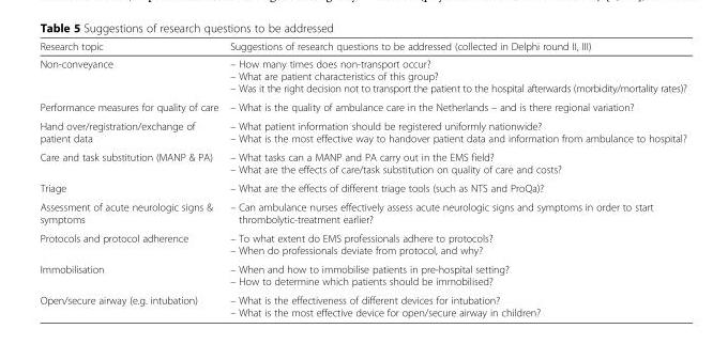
<table><thead><tr><td>Research topic</td><td>Suggestions of research questions to be addressed (collected in Delphi round II, III)</td></tr></thead><tbody><tr><td>Non-conveyance</td><td>– How many times does non-transport occur? – What are patient characteristics of this group? – Was it the right decision not to transport the patient to the hospital afterwards (morbidity/mortality rates)?</td></tr><tr><td>Performance measures for quality of care</td><td>– What is the quality of ambulance care in the Netherlands – and is there regional variation?</td></tr><tr><td>Hand over/registration/exchange of patient data</td><td>– What patient information should be registered uniformly nationwide? – What is the most effective way to handover patient data and information from ambulance to hospital?</td></tr><tr><td>Care and task substitution (MANP &amp; PA)</td><td>– What tasks can a MANP and PA carry out in the EMS field? – What are the effects of care/task substitution on quality of care and costs?</td></tr><tr><td>Triage</td><td>– What are the effects of different triage tools (such as NTS and ProQa)?</td></tr><tr><td>Assessment of acute neurologic signs &amp; symptoms</td><td>– Can ambulance nurses effectively assess acute neurologic signs and symptoms in order to start thrombolytic-treatment earlier?</td></tr><tr><td>Protocols and protocol adherence</td><td>– To what extent do EMS professionals adhere to protocols? – When do professionals deviate from protocol, and why?</td></tr><tr><td>Immobilisation</td><td>– When and how to immobilise patients in pre-hospital setting? – How to determine which patients should be immobilised?</td></tr><tr><td>Open/secure airway (e.g. intubation)</td><td>– What is the effectiveness of different devices for intubation? – What is the most effective device for open/secure airway in children?</td></tr></tbody></table>